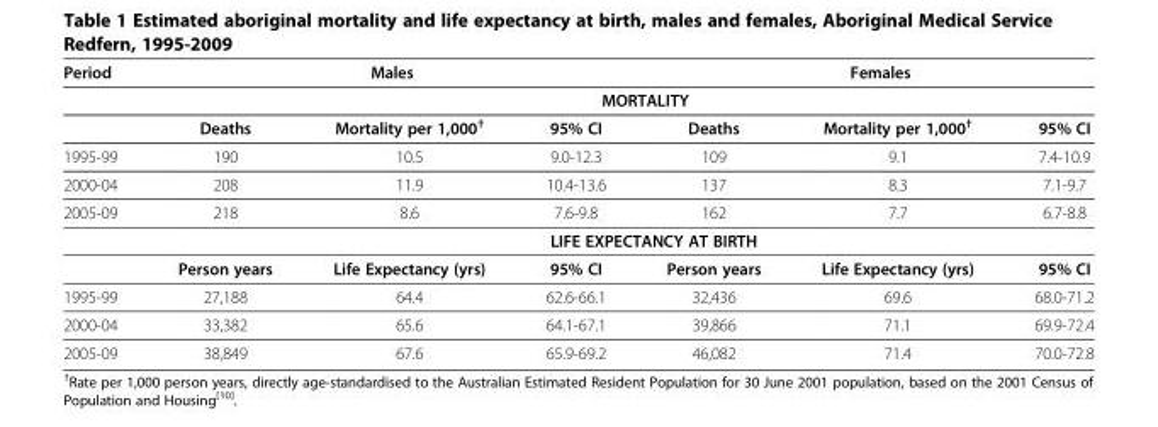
<table><thead><tr><td>Period</td><td colspan="3">Males</td><td colspan="3">Females</td></tr><tr><td colspan="7">MORTALITY</td></tr><tr><td></td><td>Deaths</td><td>Mortality per 1,000<sup>†</sup></td><td>95% CI</td><td>Deaths</td><td>Mortality per 1,000<sup>†</sup></td><td>95% CI</td></tr></thead><tbody><tr><td>1995-99</td><td>190</td><td>10.5</td><td>9.0-12.3</td><td>109</td><td>9.1</td><td>7.4-10.9</td></tr><tr><td>2000-04</td><td>208</td><td>11.9</td><td>10.4-13.6</td><td>137</td><td>8.3</td><td>7.1-9.7</td></tr><tr><td>2005-09</td><td>218</td><td>8.6</td><td>7.6-9.8</td><td>162</td><td>7.7</td><td>6.7-8.8</td></tr><tr><td colspan="7">LIFE EXPECTANCY AT BIRTH</td></tr><tr><td></td><td>Person years</td><td>Life Expectancy (yrs)</td><td>95% CI</td><td>Person years</td><td>Life Expectancy (yrs)</td><td>95% CI</td></tr><tr><td>1995-99</td><td>27,188</td><td>64.4</td><td>62.6-66.1</td><td>32,436</td><td>69.6</td><td>68.0-71.2</td></tr><tr><td>2000-04</td><td>33,382</td><td>65.6</td><td>64.1-67.1</td><td>39,866</td><td>71.1</td><td>69.9-72.4</td></tr><tr><td>2005-09</td><td>38,849</td><td>67.6</td><td>65.9-69.2</td><td>46,082</td><td>71.4</td><td>70.0-72.8</td></tr></tbody></table>